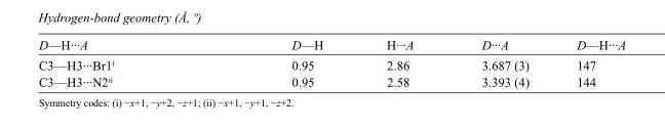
<table><tbody><tr><td>D—H···A</td><td>D—H</td><td>H···A</td><td>D···A</td><td>D—H···A</td></tr><tr><td>C3—H3···Br1<sup>i</sup></td><td>0.95</td><td>2.86</td><td>3.687 (3)</td><td>147</td></tr><tr><td>C3—H3···N2<sup>ii</sup></td><td>0.95</td><td>2.58</td><td>3.393 (4)</td><td>144</td></tr></tbody></table>